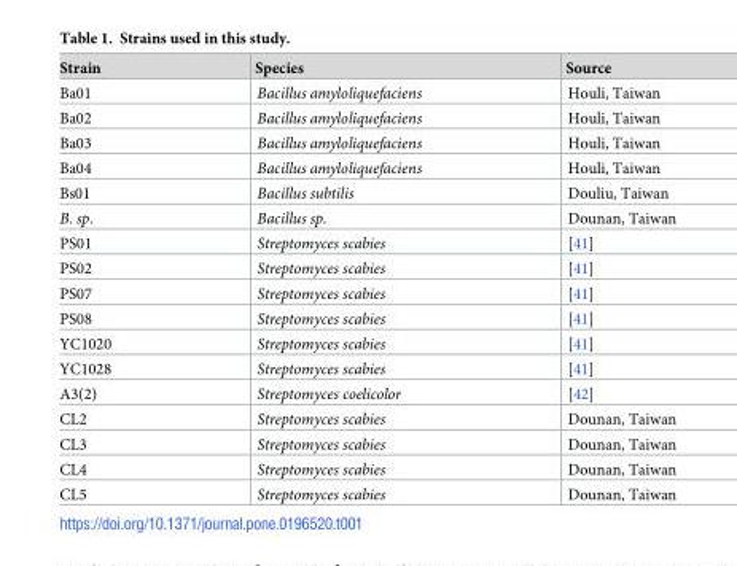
<table><thead><tr><td>Strain</td><td>Species</td><td>Source</td></tr></thead><tbody><tr><td>Ba01</td><td>Bacillus amyloliquefaciens</td><td>Houli, Taiwan</td></tr><tr><td>Ba02</td><td>Bacillus amyloliquefaciens</td><td>Houli, Taiwan</td></tr><tr><td>Ba03</td><td>Bacillus amyloliquefaciens</td><td>Houli, Taiwan</td></tr><tr><td>Ba04</td><td>Bacillus amyloliquefaciens</td><td>Houli, Taiwan</td></tr><tr><td>Bs01</td><td>Bacillus subtilis</td><td>Douliu, Taiwan</td></tr><tr><td>B. sp.</td><td>Bacillus sp.</td><td>Dounan, Taiwan</td></tr><tr><td>PS01</td><td>Streptomyces scabies</td><td>[41]</td></tr><tr><td>PS02</td><td>Streptomyces scabies</td><td>[41]</td></tr><tr><td>PS07</td><td>Streptomyces scabies</td><td>[41]</td></tr><tr><td>PS08</td><td>Streptomyces scabies</td><td>[41]</td></tr><tr><td>YC1020</td><td>Streptomyces scabies</td><td>[41]</td></tr><tr><td>YC1028</td><td>Streptomyces scabies</td><td>[41]</td></tr><tr><td>A3(2)</td><td>Streptomyces coelicolor</td><td>[42]</td></tr><tr><td>CL2</td><td>Streptomyces scabies</td><td>Dounan, Taiwan</td></tr><tr><td>CL3</td><td>Streptomyces scabies</td><td>Dounan, Taiwan</td></tr><tr><td>CL4</td><td>Streptomyces scabies</td><td>Dounan, Taiwan</td></tr><tr><td>CL5</td><td>Streptomyces scabies</td><td>Dounan, Taiwan</td></tr></tbody></table>